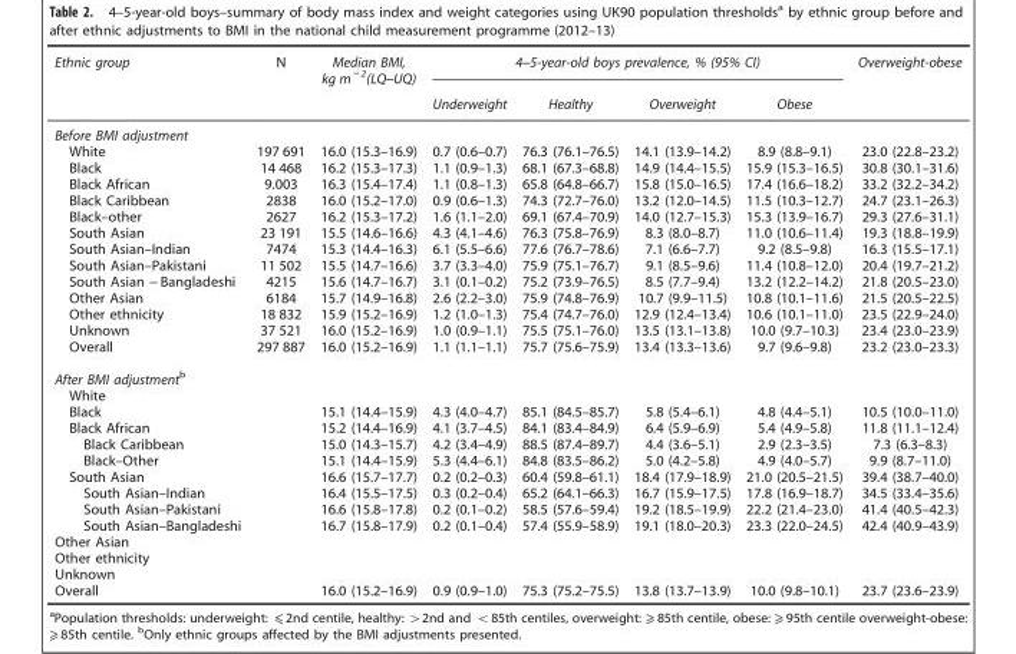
<table><thead><tr><td rowspan="2">Ethnic group</td><td rowspan="2">N</td><td rowspan="2">Median BMI, kg m <sup>− 2</sup>(LQ–UQ)</td><td colspan="4">4–5-year-old boys prevalence, % (95% CI)</td><td rowspan="2">Overweight-obese</td></tr><tr><td>Underweight</td><td>Healthy</td><td>Overweight</td><td>Obese</td></tr></thead><tbody><tr><td colspan="8">Before BMI adjustment</td></tr><tr><td>White</td><td>197 691</td><td>16.0 (15.3–16.9)</td><td>0.7 (0.6–0.7)</td><td>76.3 (76.1–76.5)</td><td>14.1 (13.9–14.2)</td><td>8.9 (8.8–9.1)</td><td>23.0 (22.8–23.2)</td></tr><tr><td>Black</td><td>14 468</td><td>16.2 (15.3–17.3)</td><td>1.1 (0.9–1.3)</td><td>68.1 (67.3–68.8)</td><td>14.9 (14.4–15.5)</td><td>15.9 (15.3–16.5)</td><td>30.8 (30.1–31.6)</td></tr><tr><td>Black African</td><td>9.003</td><td>16.3 (15.4–17.4)</td><td>1.1 (0.8–1.3)</td><td>65.8 (64.8–66.7)</td><td>15.8 (15.0–16.5)</td><td>17.4 (16.6–18.2)</td><td>33.2 (32.2–34.2)</td></tr><tr><td>Black Caribbean</td><td>2838</td><td>16.0 (15.2–17.0)</td><td>0.9 (0.6–1.3)</td><td>74.3 (72.7–76.0)</td><td>13.2 (12.0–14.5)</td><td>11.5 (10.3–12.7)</td><td>24.7 (23.1–26.3)</td></tr><tr><td>Black–other</td><td>2627</td><td>16.2 (15.3–17.2)</td><td>1.6 (1.1–2.0)</td><td>69.1 (67.4–70.9)</td><td>14.0 (12.7–15.3)</td><td>15.3 (13.9–16.7)</td><td>29.3 (27.6–31.1)</td></tr><tr><td>South Asian</td><td>23 191</td><td>15.5 (14.6–16.6)</td><td>4.3 (4.1–4.6)</td><td>76.3 (75.8–76.9)</td><td>8.3 (8.0–8.7)</td><td>11.0 (10.6–11.4)</td><td>19.3 (18.8–19.9)</td></tr><tr><td>South Asian–Indian</td><td>7474</td><td>15.3 (14.4–16.3)</td><td>6.1 (5.5–6.6)</td><td>77.6 (76.7–78.6)</td><td>7.1 (6.6–7.7)</td><td>9.2 (8.5–9.8)</td><td>16.3 (15.5–17.1)</td></tr><tr><td>South Asian–Pakistani</td><td>11 502</td><td>15.5 (14.7–16.6)</td><td>3.7 (3.3–4.0)</td><td>75.9 (75.1–76.7)</td><td>9.1 (8.5–9.6)</td><td>11.4 (10.8–12.0)</td><td>20.4 (19.7–21.2)</td></tr><tr><td>South Asian − Bangladeshi</td><td>4215</td><td>15.6 (14.7–16.7)</td><td>3.1 (0.1–0.2)</td><td>75.2 (73.9–76.5)</td><td>8.5 (7.7–9.4)</td><td>13.2 (12.2–14.2)</td><td>21.8 (20.5–23.0)</td></tr><tr><td>Other Asian</td><td>6184</td><td>15.7 (14.9–16.8)</td><td>2.6 (2.2–3.0)</td><td>75.9 (74.8–76.9)</td><td>10.7 (9.9–11.5)</td><td>10.8 (10.1–11.6)</td><td>21.5 (20.5–22.5)</td></tr><tr><td>Other ethnicity</td><td>18 832</td><td>15.9 (15.2–16.9)</td><td>1.2 (1.0–1.3)</td><td>75.4 (74.7–76.0)</td><td>12.9 (12.4–13.4)</td><td>10.6 (10.1–11.0)</td><td>23.5 (22.9–24.0)</td></tr><tr><td>Unknown</td><td>37 521</td><td>16.0 (15.2–16.9)</td><td>1.0 (0.9–1.1)</td><td>75.5 (75.1–76.0)</td><td>13.5 (13.1–13.8)</td><td>10.0 (9.7–10.3)</td><td>23.4 (23.0–23.9)</td></tr><tr><td>Overall</td><td>297 887</td><td>16.0 (15.2–16.9)</td><td>1.1 (1.1–1.1)</td><td>75.7 (75.6–75.9)</td><td>13.4 (13.3–13.6)</td><td>9.7 (9.6–9.8)</td><td>23.2 (23.0–23.3)</td></tr><tr><td colspan="8">After BMI adjustment<sup>b</sup></td></tr><tr><td colspan="8">White</td></tr><tr><td>Black</td><td></td><td>15.1 (14.4–15.9)</td><td>4.3 (4.0–4.7)</td><td>85.1 (84.5–85.7)</td><td>5.8 (5.4–6.1)</td><td>4.8 (4.4–5.1)</td><td>10.5 (10.0–11.0)</td></tr><tr><td>Black African</td><td></td><td>15.2 (14.4–16.9)</td><td>4.1 (3.7–4.5)</td><td>84.1 (83.4–84.9)</td><td>6.4 (5.9–6.9)</td><td>5.4 (4.9–5.8)</td><td>11.8 (11.1–12.4)</td></tr><tr><td>Black Caribbean</td><td></td><td>15.0 (14.3–15.7)</td><td>4.2 (3.4–4.9)</td><td>88.5 (87.4–89.7)</td><td>4.4 (3.6–5.1)</td><td>2.9 (2.3–3.5)</td><td>7.3 (6.3–8.3)</td></tr><tr><td>Black–Other</td><td></td><td>15.1 (14.4–15.9)</td><td>5.3 (4.4–6.1)</td><td>84.8 (83.5–86.2)</td><td>5.0 (4.2–5.8)</td><td>4.9 (4.0–5.7)</td><td>9.9 (8.7–11.0)</td></tr><tr><td>South Asian</td><td></td><td>16.6 (15.7–17.7)</td><td>0.2 (0.2–0.3)</td><td>60.4 (59.8–61.1)</td><td>18.4 (17.9–18.9)</td><td>21.0 (20.5–21.5)</td><td>39.4 (38.7–40.0)</td></tr><tr><td>South Asian–Indian</td><td></td><td>16.4 (15.5–17.5)</td><td>0.3 (0.2–0.4)</td><td>65.2 (64.1–66.3)</td><td>16.7 (15.9–17.5)</td><td>17.8 (16.9–18.7)</td><td>34.5 (33.4–35.6)</td></tr><tr><td>South Asian–Pakistani</td><td></td><td>16.6 (15.8–17.8)</td><td>0.2 (0.1–0.2)</td><td>58.5 (57.6–59.4)</td><td>19.2 (18.5–19.9)</td><td>22.2 (21.4–23.0)</td><td>41.4 (40.5–42.3)</td></tr><tr><td>South Asian–Bangladeshi</td><td></td><td>16.7 (15.8–17.9)</td><td>0.2 (0.1–0.4)</td><td>57.4 (55.9–58.9)</td><td>19.1 (18.0–20.3)</td><td>23.3 (22.0–24.5)</td><td>42.4 (40.9–43.9)</td></tr><tr><td colspan="8">Other Asian</td></tr><tr><td colspan="8">Other ethnicity</td></tr><tr><td colspan="8">Unknown</td></tr><tr><td>Overall</td><td></td><td>16.0 (15.2–16.9)</td><td>0.9 (0.9–1.0)</td><td>75.3 (75.2–75.5)</td><td>13.8 (13.7–13.9)</td><td>10.0 (9.8–10.1)</td><td>23.7 (23.6–23.9)</td></tr></tbody></table>